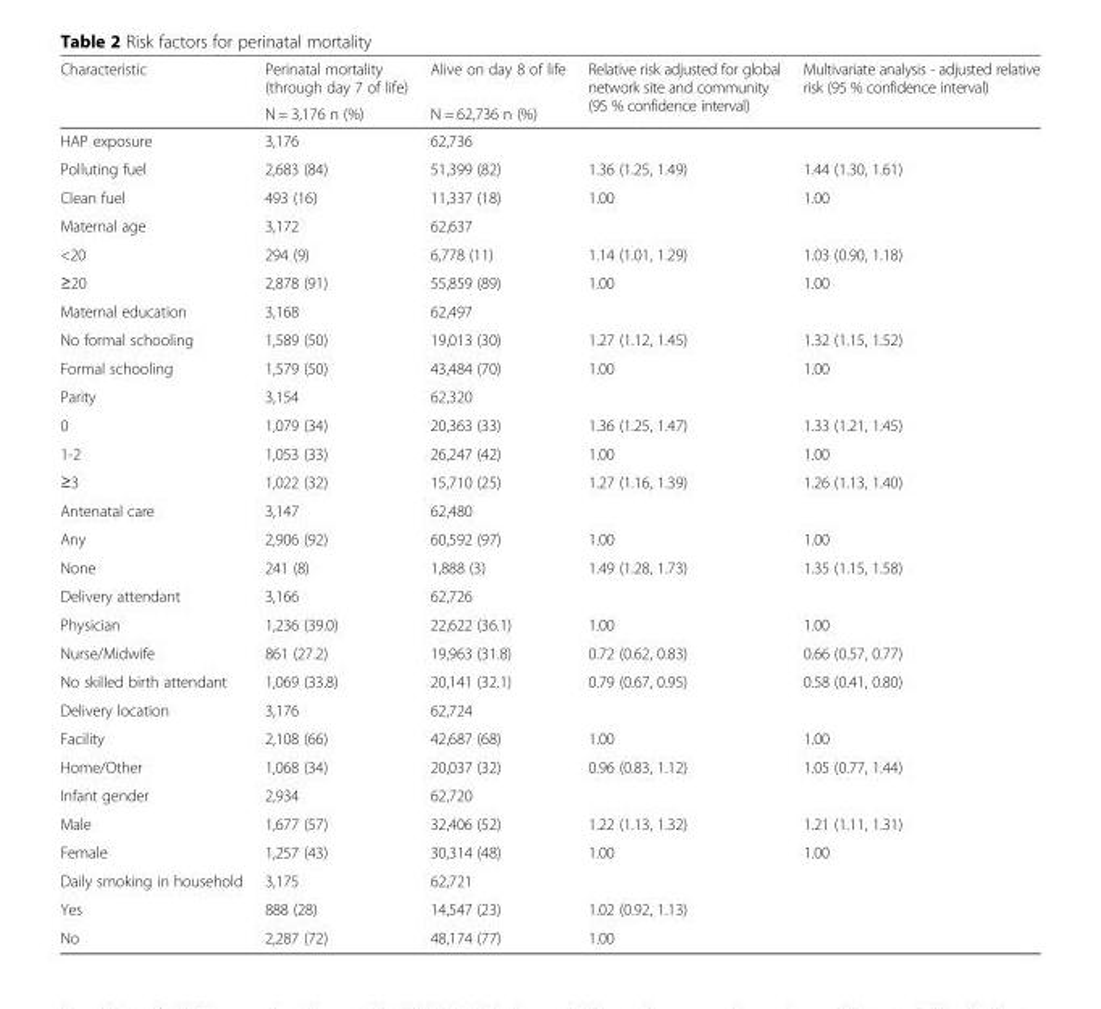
<table><thead><tr><td rowspan="2">Characteristic</td><td rowspan="2">Perinatal mortality (through day 7 of life) N = 3,176 n (%)</td><td rowspan="2">Alive on day 8 of life N = 62,736 n (%)</td><td rowspan="2">Relative risk adjusted for global network site and community (95 % confidence interval)</td><td rowspan="2">Multivariate analysis - adjusted relative risk (95 % confidence interval)</td></tr><tr></tr></thead><tbody><tr><td>HAP exposure</td><td>3,176</td><td>62,736</td><td></td><td></td></tr><tr><td>Polluting fuel</td><td>2,683 (84)</td><td>51,399 (82)</td><td>1.36 (1.25, 1.49)</td><td>1.44 (1.30, 1.61)</td></tr><tr><td>Clean fuel</td><td>493 (16)</td><td>11,337 (18)</td><td>1.00</td><td>1.00</td></tr><tr><td>Maternal age</td><td>3,172</td><td>62,637</td><td></td><td></td></tr><tr><td>&lt;20</td><td>294 (9)</td><td>6,778 (11)</td><td>1.14 (1.01, 1.29)</td><td>1.03 (0.90, 1.18)</td></tr><tr><td>≥20</td><td>2,878 (91)</td><td>55,859 (89)</td><td>1.00</td><td>1.00</td></tr><tr><td>Maternal education</td><td>3,168</td><td>62,497</td><td></td><td></td></tr><tr><td>No formal schooling</td><td>1,589 (50)</td><td>19,013 (30)</td><td>1.27 (1.12, 1.45)</td><td>1.32 (1.15, 1.52)</td></tr><tr><td>Formal schooling</td><td>1,579 (50)</td><td>43,484 (70)</td><td>1.00</td><td>1.00</td></tr><tr><td>Parity</td><td>3,154</td><td>62,320</td><td></td><td></td></tr><tr><td>0</td><td>1,079 (34)</td><td>20,363 (33)</td><td>1.36 (1.25, 1.47)</td><td>1.33 (1.21, 1.45)</td></tr><tr><td>1-2</td><td>1,053 (33)</td><td>26,247 (42)</td><td>1.00</td><td>1.00</td></tr><tr><td>≥3</td><td>1,022 (32)</td><td>15,710 (25)</td><td>1.27 (1.16, 1.39)</td><td>1.26 (1.13, 1.40)</td></tr><tr><td>Antenatal care</td><td>3,147</td><td>62,480</td><td></td><td></td></tr><tr><td>Any</td><td>2,906 (92)</td><td>60,592 (97)</td><td>1.00</td><td>1.00</td></tr><tr><td>None</td><td>241 (8)</td><td>1,888 (3)</td><td>1.49 (1.28, 1.73)</td><td>1.35 (1.15, 1.58)</td></tr><tr><td>Delivery attendant</td><td>3,166</td><td>62,726</td><td></td><td></td></tr><tr><td>Physician</td><td>1,236 (39.0)</td><td>22,622 (36.1)</td><td>1.00</td><td>1.00</td></tr><tr><td>Nurse/Midwife</td><td>861 (27.2)</td><td>19,963 (31.8)</td><td>0.72 (0.62, 0.83)</td><td>0.66 (0.57, 0.77)</td></tr><tr><td>No skilled birth attendant</td><td>1,069 (33.8)</td><td>20,141 (32.1)</td><td>0.79 (0.67, 0.95)</td><td>0.58 (0.41, 0.80)</td></tr><tr><td>Delivery location</td><td>3,176</td><td>62,724</td><td></td><td></td></tr><tr><td>Facility</td><td>2,108 (66)</td><td>42,687 (68)</td><td>1.00</td><td>1.00</td></tr><tr><td>Home/Other</td><td>1,068 (34)</td><td>20,037 (32)</td><td>0.96 (0.83, 1.12)</td><td>1.05 (0.77, 1.44)</td></tr><tr><td>Infant gender</td><td>2,934</td><td>62,720</td><td></td><td></td></tr><tr><td>Male</td><td>1,677 (57)</td><td>32,406 (52)</td><td>1.22 (1.13, 1.32)</td><td>1.21 (1.11, 1.31)</td></tr><tr><td>Female</td><td>1,257 (43)</td><td>30,314 (48)</td><td>1.00</td><td>1.00</td></tr><tr><td>Daily smoking in household</td><td>3,175</td><td>62,721</td><td></td><td></td></tr><tr><td>Yes</td><td>888 (28)</td><td>14,547 (23)</td><td>1.02 (0.92, 1.13)</td><td></td></tr><tr><td>No</td><td>2,287 (72)</td><td>48,174 (77)</td><td>1.00</td><td></td></tr></tbody></table>